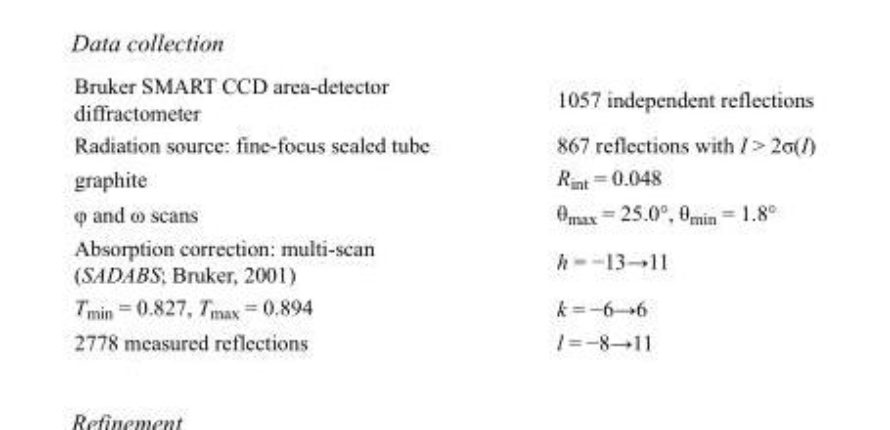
<table><tbody><tr><td>Bruker SMART CCD area-detector diffractometer</td><td>1057 independent reflections</td></tr><tr><td>Radiation source: fine-focus sealed tube</td><td>867 reflections with I &gt; 2σ(I)</td></tr><tr><td>graphite</td><td>R<sub>int</sub> = 0.048</td></tr><tr><td>φ and ω scans</td><td>θ<sub>max</sub> = 25.0°, θ<sub>min</sub> = 1.8°</td></tr><tr><td>Absorption correction: multi-scan (SADABS; Bruker, 2001)</td><td>h = −13→11</td></tr><tr><td>T<sub>min</sub> = 0.827, T<sub>max</sub> = 0.894</td><td>k = −6→6</td></tr><tr><td>2778 measured reflections</td><td>l = −8→11</td></tr></tbody></table>